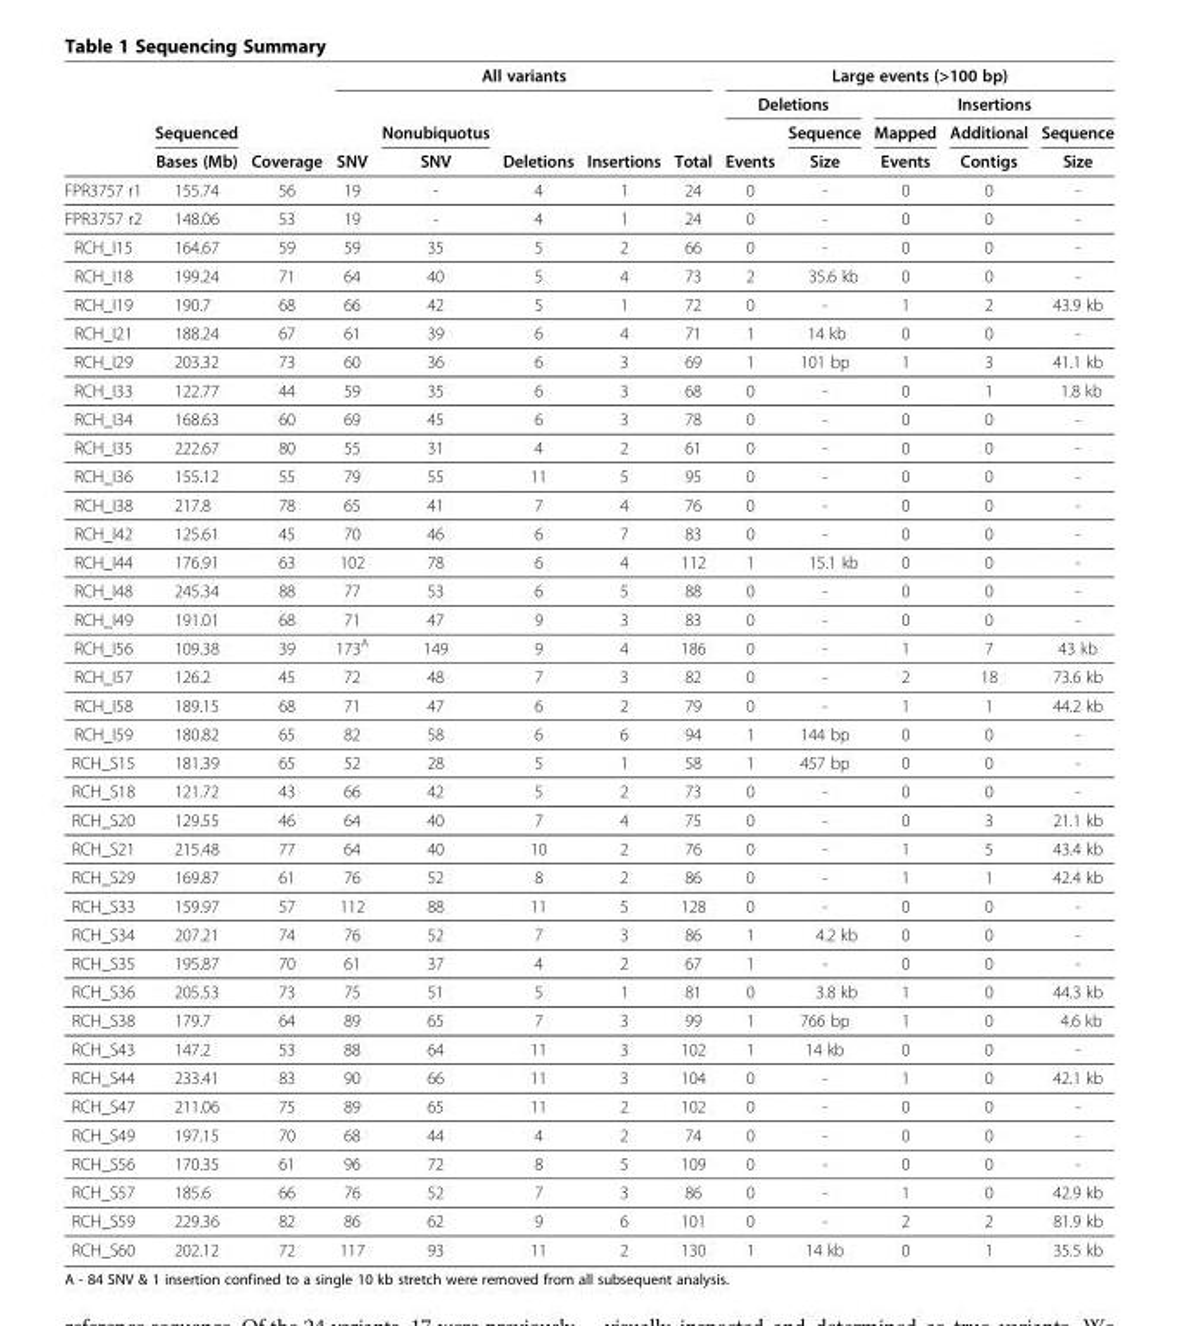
<table><thead><tr><td rowspan="4"></td><td rowspan="4">Sequenced Bases (Mb)</td><td rowspan="4">Coverage</td><td colspan="5">All variants</td><td colspan="5">Large events (&gt;100 bp)</td></tr><tr><td rowspan="3">SNV</td><td rowspan="3">Nonubiquotus SNV</td><td rowspan="3">Deletions</td><td rowspan="3">Insertions</td><td rowspan="3">Total</td><td colspan="2">Deletions</td><td colspan="3">Insertions</td></tr><tr><td rowspan="2">Events</td><td rowspan="2">Sequence Size</td><td rowspan="2">Mapped Events</td><td rowspan="2">Additional Contigs</td><td rowspan="2">Sequence Size</td></tr><tr></tr></thead><tbody><tr><td>FPR3757 r1</td><td>155.74</td><td>56</td><td>19</td><td>-</td><td>4</td><td>1</td><td>24</td><td>0</td><td>-</td><td>0</td><td>0</td><td>-</td></tr><tr><td>FPR3757 r2</td><td>148.06</td><td>53</td><td>19</td><td>-</td><td>4</td><td>1</td><td>24</td><td>0</td><td>-</td><td>0</td><td>0</td><td>-</td></tr><tr><td>RCH_I15</td><td>164.67</td><td>59</td><td>59</td><td>35</td><td>5</td><td>2</td><td>66</td><td>0</td><td>-</td><td>0</td><td>0</td><td>-</td></tr><tr><td>RCH_I18</td><td>199.24</td><td>71</td><td>64</td><td>40</td><td>5</td><td>4</td><td>73</td><td>2</td><td>35.6 kb</td><td>0</td><td>0</td><td>-</td></tr><tr><td>RCH_I19</td><td>190.7</td><td>68</td><td>66</td><td>42</td><td>5</td><td>1</td><td>72</td><td>0</td><td>-</td><td>1</td><td>2</td><td>43.9 kb</td></tr><tr><td>RCH_I21</td><td>188.24</td><td>67</td><td>61</td><td>39</td><td>6</td><td>4</td><td>71</td><td>1</td><td>14 kb</td><td>0</td><td>0</td><td>-</td></tr><tr><td>RCH_I29</td><td>203.32</td><td>73</td><td>60</td><td>36</td><td>6</td><td>3</td><td>69</td><td>1</td><td>101 bp</td><td>1</td><td>3</td><td>41.1 kb</td></tr><tr><td>RCH_I33</td><td>122.77</td><td>44</td><td>59</td><td>35</td><td>6</td><td>3</td><td>68</td><td>0</td><td>-</td><td>0</td><td>1</td><td>1.8 kb</td></tr><tr><td>RCH_I34</td><td>168.63</td><td>60</td><td>69</td><td>45</td><td>6</td><td>3</td><td>78</td><td>0</td><td>-</td><td>0</td><td>0</td><td>-</td></tr><tr><td>RCH_I35</td><td>222.67</td><td>80</td><td>55</td><td>31</td><td>4</td><td>2</td><td>61</td><td>0</td><td>-</td><td>0</td><td>0</td><td>-</td></tr><tr><td>RCH_I36</td><td>155.12</td><td>55</td><td>79</td><td>55</td><td>11</td><td>5</td><td>95</td><td>0</td><td>-</td><td>0</td><td>0</td><td>-</td></tr><tr><td>RCH_I38</td><td>217.8</td><td>78</td><td>65</td><td>41</td><td>7</td><td>4</td><td>76</td><td>0</td><td>-</td><td>0</td><td>0</td><td>-</td></tr><tr><td>RCH_I42</td><td>125.61</td><td>45</td><td>70</td><td>46</td><td>6</td><td>7</td><td>83</td><td>0</td><td>-</td><td>0</td><td>0</td><td>-</td></tr><tr><td>RCH_I44</td><td>176.91</td><td>63</td><td>102</td><td>78</td><td>6</td><td>4</td><td>112</td><td>1</td><td>15.1 kb</td><td>0</td><td>0</td><td>-</td></tr><tr><td>RCH_I48</td><td>245.34</td><td>88</td><td>77</td><td>53</td><td>6</td><td>5</td><td>88</td><td>0</td><td>-</td><td>0</td><td>0</td><td>-</td></tr><tr><td>RCH_I49</td><td>191.01</td><td>68</td><td>71</td><td>47</td><td>9</td><td>3</td><td>83</td><td>0</td><td>-</td><td>0</td><td>0</td><td>-</td></tr><tr><td>RCH_I56</td><td>109.38</td><td>39</td><td>173<sup>A</sup></td><td>149</td><td>9</td><td>4</td><td>186</td><td>0</td><td>-</td><td>1</td><td>7</td><td>43 kb</td></tr><tr><td>RCH_I57</td><td>126.2</td><td>45</td><td>72</td><td>48</td><td>7</td><td>3</td><td>82</td><td>0</td><td>-</td><td>2</td><td>18</td><td>73.6 kb</td></tr><tr><td>RCH_I58</td><td>189.15</td><td>68</td><td>71</td><td>47</td><td>6</td><td>2</td><td>79</td><td>0</td><td>-</td><td>1</td><td>1</td><td>44.2 kb</td></tr><tr><td>RCH_I59</td><td>180.82</td><td>65</td><td>82</td><td>58</td><td>6</td><td>6</td><td>94</td><td>1</td><td>144 bp</td><td>0</td><td>0</td><td>-</td></tr><tr><td>RCH_S15</td><td>181.39</td><td>65</td><td>52</td><td>28</td><td>5</td><td>1</td><td>58</td><td>1</td><td>457 bp</td><td>0</td><td>0</td><td>-</td></tr><tr><td>RCH_S18</td><td>121.72</td><td>43</td><td>66</td><td>42</td><td>5</td><td>2</td><td>73</td><td>0</td><td>-</td><td>0</td><td>0</td><td>-</td></tr><tr><td>RCH_S20</td><td>129.55</td><td>46</td><td>64</td><td>40</td><td>7</td><td>4</td><td>75</td><td>0</td><td>-</td><td>0</td><td>3</td><td>21.1 kb</td></tr><tr><td>RCH_S21</td><td>215.48</td><td>77</td><td>64</td><td>40</td><td>10</td><td>2</td><td>76</td><td>0</td><td>-</td><td>1</td><td>5</td><td>43.4 kb</td></tr><tr><td>RCH_S29</td><td>169.87</td><td>61</td><td>76</td><td>52</td><td>8</td><td>2</td><td>86</td><td>0</td><td>-</td><td>1</td><td>1</td><td>42.4 kb</td></tr><tr><td>RCH_S33</td><td>159.97</td><td>57</td><td>112</td><td>88</td><td>11</td><td>5</td><td>128</td><td>0</td><td>-</td><td>0</td><td>0</td><td>-</td></tr><tr><td>RCH_S34</td><td>207.21</td><td>74</td><td>76</td><td>52</td><td>7</td><td>3</td><td>86</td><td>1</td><td>4.2 kb</td><td>0</td><td>0</td><td>-</td></tr><tr><td>RCH_S35</td><td>195.87</td><td>70</td><td>61</td><td>37</td><td>4</td><td>2</td><td>67</td><td>1</td><td>-</td><td>0</td><td>0</td><td>-</td></tr><tr><td>RCH_S36</td><td>205.53</td><td>73</td><td>75</td><td>51</td><td>5</td><td>1</td><td>81</td><td>0</td><td>3.8 kb</td><td>1</td><td>0</td><td>44.3 kb</td></tr><tr><td>RCH_S38</td><td>179.7</td><td>64</td><td>89</td><td>65</td><td>7</td><td>3</td><td>99</td><td>1</td><td>766 bp</td><td>1</td><td>0</td><td>4.6 kb</td></tr><tr><td>RCH_S43</td><td>147.2</td><td>53</td><td>88</td><td>64</td><td>11</td><td>3</td><td>102</td><td>1</td><td>14 kb</td><td>0</td><td>0</td><td>-</td></tr><tr><td>RCH_S44</td><td>233.41</td><td>83</td><td>90</td><td>66</td><td>11</td><td>3</td><td>104</td><td>0</td><td>-</td><td>1</td><td>0</td><td>42.1 kb</td></tr><tr><td>RCH_S47</td><td>211.06</td><td>75</td><td>89</td><td>65</td><td>11</td><td>2</td><td>102</td><td>0</td><td>-</td><td>0</td><td>0</td><td>-</td></tr><tr><td>RCH_S49</td><td>197.15</td><td>70</td><td>68</td><td>44</td><td>4</td><td>2</td><td>74</td><td>0</td><td>-</td><td>0</td><td>0</td><td>-</td></tr><tr><td>RCH_S56</td><td>170.35</td><td>61</td><td>96</td><td>72</td><td>8</td><td>5</td><td>109</td><td>0</td><td>-</td><td>0</td><td>0</td><td>-</td></tr><tr><td>RCH_S57</td><td>185.6</td><td>66</td><td>76</td><td>52</td><td>7</td><td>3</td><td>86</td><td>0</td><td>-</td><td>1</td><td>0</td><td>42.9 kb</td></tr><tr><td>RCH_S59</td><td>229.36</td><td>82</td><td>86</td><td>62</td><td>9</td><td>6</td><td>101</td><td>0</td><td>-</td><td>2</td><td>2</td><td>81.9 kb</td></tr><tr><td>RCH_S60</td><td>202.12</td><td>72</td><td>117</td><td>93</td><td>11</td><td>2</td><td>130</td><td>1</td><td>14 kb</td><td>0</td><td>1</td><td>35.5 kb</td></tr></tbody></table>